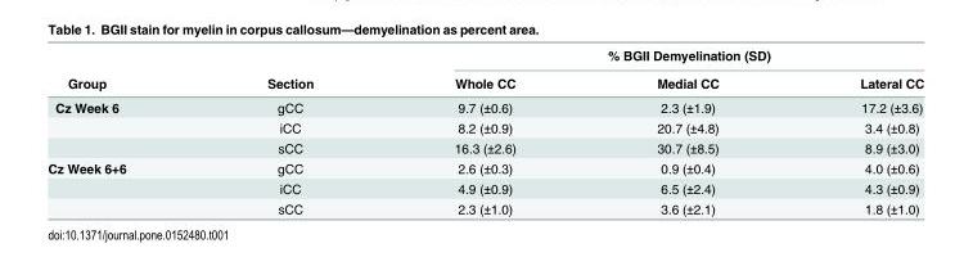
<table><thead><tr><td rowspan="2">Group</td><td rowspan="2">Section</td><td colspan="3">% BGII Demyelination (SD)</td></tr><tr><td>Whole CC</td><td>Medial CC</td><td>Lateral CC</td></tr></thead><tbody><tr><td rowspan="3">Cz Week 6</td><td>gCC</td><td>9.7 (±0.6)</td><td>2.3 (±1.9)</td><td>17.2 (±3.6)</td></tr><tr><td>iCC</td><td>8.2 (±0.9)</td><td>20.7 (±4.8)</td><td>3.4 (±0.8)</td></tr><tr><td>sCC</td><td>16.3 (±2.6)</td><td>30.7 (±8.5)</td><td>8.9 (±3.0)</td></tr><tr><td rowspan="3">Cz Week 6+6</td><td>gCC</td><td>2.6 (±0.3)</td><td>0.9 (±0.4)</td><td>4.0 (±0.6)</td></tr><tr><td>iCC</td><td>4.9 (±0.9)</td><td>6.5 (±2.4)</td><td>4.3 (±0.9)</td></tr><tr><td>sCC</td><td>2.3 (±1.0)</td><td>3.6 (±2.1)</td><td>1.8 (±1.0)</td></tr></tbody></table>